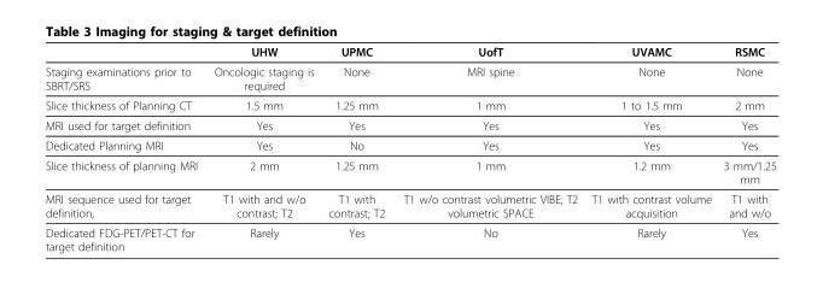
<table><thead><tr><td></td><td>UHW</td><td>UPMC</td><td>UofT</td><td>UVAMC</td><td>RSMC</td></tr></thead><tbody><tr><td>Staging examinations prior to SBRT/SRS</td><td>Oncologic staging is required</td><td>None</td><td>MRI spine</td><td>None</td><td>None</td></tr><tr><td>Slice thickness of Planning CT</td><td>1.5 mm</td><td>1.25 mm</td><td>1 mm</td><td>1 to 1.5 mm</td><td>2 mm</td></tr><tr><td>MRI used for target definition</td><td>Yes</td><td>Yes</td><td>Yes</td><td>Yes</td><td>Yes</td></tr><tr><td>Dedicated Planning MRI</td><td>Yes</td><td>No</td><td>Yes</td><td>Yes</td><td>Yes</td></tr><tr><td>Slice thickness of planning MRI</td><td>2 mm</td><td>1.25 mm</td><td>1 mm</td><td>1.2 mm</td><td>3 mm/1.25 mm</td></tr><tr><td>MRI sequence used for target definition,</td><td>T1 with and w/o contrast; T2</td><td>T1 with contrast; T2</td><td>T1 w/o contrast volumetric VIBE; T2 volumetric SPACE</td><td>T1 with contrast volume acquisition</td><td>T1 with and w/o</td></tr><tr><td>Dedicated FDG-PET/PET-CT for target definition</td><td>Rarely</td><td>Yes</td><td>No</td><td>Rarely</td><td>Yes</td></tr></tbody></table>